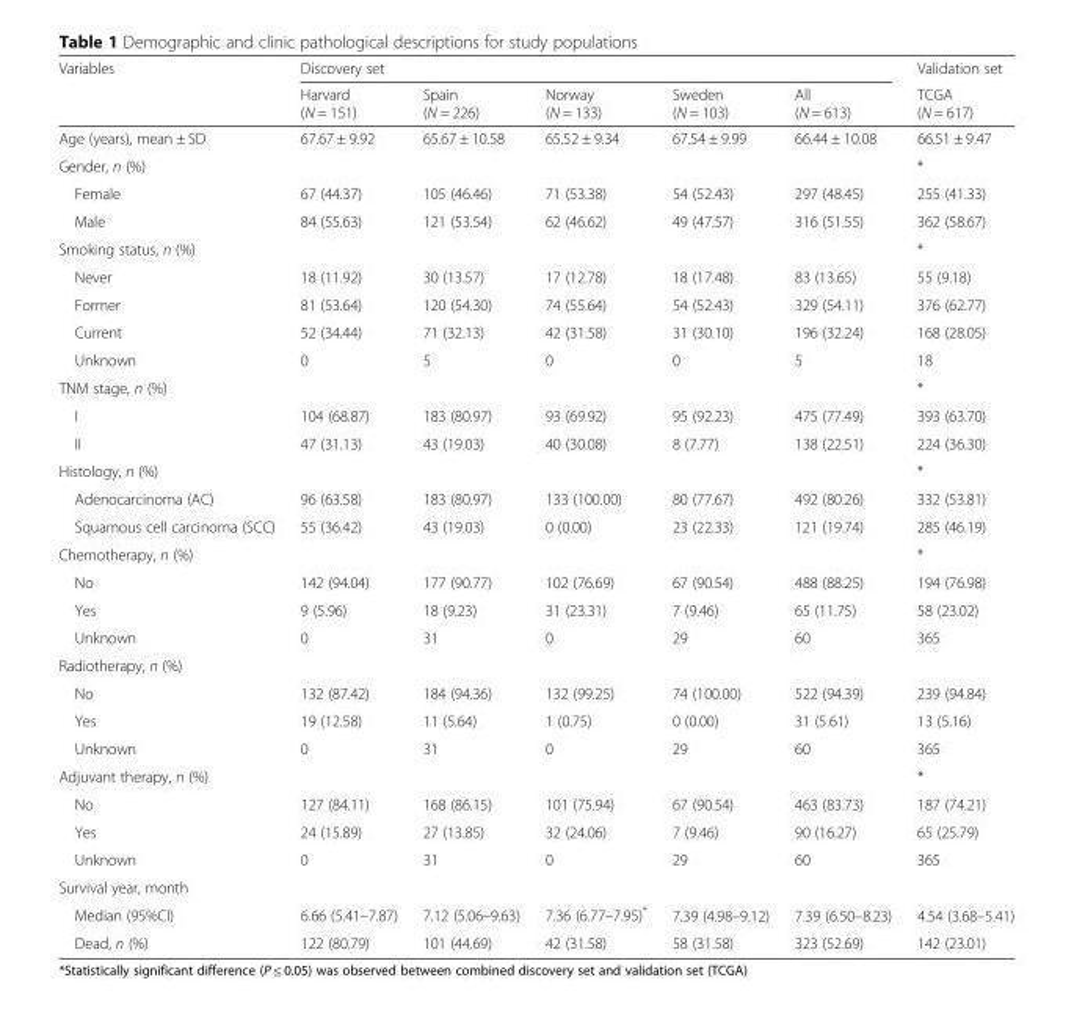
<table><thead><tr><td rowspan="2">Variables</td><td colspan="5">Discovery set</td><td rowspan="2">Validation set TCGA (N = 617)</td></tr><tr><td>Harvard (N = 151)</td><td>Spain (N = 226)</td><td>Norway (N = 133)</td><td>Sweden (N = 103)</td><td>All (N = 613)</td></tr></thead><tbody><tr><td>Age (years), mean ± SD</td><td>67.67 ± 9.92</td><td>65.67 ± 10.58</td><td>65.52 ± 9.34</td><td>67.54 ± 9.99</td><td>66.44 ± 10.08</td><td>66.51 ± 9.47</td></tr><tr><td>Gender, n (%)</td><td></td><td></td><td></td><td></td><td></td><td>*</td></tr><tr><td>Female</td><td>67 (44.37)</td><td>105 (46.46)</td><td>71 (53.38)</td><td>54 (52.43)</td><td>297 (48.45)</td><td>255 (41.33)</td></tr><tr><td>Male</td><td>84 (55.63)</td><td>121 (53.54)</td><td>62 (46.62)</td><td>49 (47.57)</td><td>316 (51.55)</td><td>362 (58.67)</td></tr><tr><td>Smoking status, n (%)</td><td></td><td></td><td></td><td></td><td></td><td>*</td></tr><tr><td>Never</td><td>18 (11.92)</td><td>30 (13.57)</td><td>17 (12.78)</td><td>18 (17.48)</td><td>83 (13.65)</td><td>55 (9.18)</td></tr><tr><td>Former</td><td>81 (53.64)</td><td>120 (54.30)</td><td>74 (55.64)</td><td>54 (52.43)</td><td>329 (54.11)</td><td>376 (62.77)</td></tr><tr><td>Current</td><td>52 (34.44)</td><td>71 (32.13)</td><td>42 (31.58)</td><td>31 (30.10)</td><td>196 (32.24)</td><td>168 (28.05)</td></tr><tr><td>Unknown</td><td>0</td><td>5</td><td>0</td><td>0</td><td>5</td><td>18</td></tr><tr><td>TNM stage, n (%)</td><td></td><td></td><td></td><td></td><td></td><td>*</td></tr><tr><td>I</td><td>104 (68.87)</td><td>183 (80.97)</td><td>93 (69.92)</td><td>95 (92.23)</td><td>475 (77.49)</td><td>393 (63.70)</td></tr><tr><td>II</td><td>47 (31.13)</td><td>43 (19.03)</td><td>40 (30.08)</td><td>8 (7.77)</td><td>138 (22.51)</td><td>224 (36.30)</td></tr><tr><td>Histology, n (%)</td><td></td><td></td><td></td><td></td><td></td><td>*</td></tr><tr><td>Adenocarcinoma (AC)</td><td>96 (63.58)</td><td>183 (80.97)</td><td>133 (100.00)</td><td>80 (77.67)</td><td>492 (80.26)</td><td>332 (53.81)</td></tr><tr><td>Squamous cell carcinoma (SCC)</td><td>55 (36.42)</td><td>43 (19.03)</td><td>0 (0.00)</td><td>23 (22.33)</td><td>121 (19.74)</td><td>285 (46.19)</td></tr><tr><td>Chemotherapy, n (%)</td><td></td><td></td><td></td><td></td><td></td><td>*</td></tr><tr><td>No</td><td>142 (94.04)</td><td>177 (90.77)</td><td>102 (76.69)</td><td>67 (90.54)</td><td>488 (88.25)</td><td>194 (76.98)</td></tr><tr><td>Yes</td><td>9 (5.96)</td><td>18 (9.23)</td><td>31 (23.31)</td><td>7 (9.46)</td><td>65 (11.75)</td><td>58 (23.02)</td></tr><tr><td>Unknown</td><td>0</td><td>31</td><td>0</td><td>29</td><td>60</td><td>365</td></tr><tr><td colspan="7">Radiotherapy, n (%)</td></tr><tr><td>No</td><td>132 (87.42)</td><td>184 (94.36)</td><td>132 (99.25)</td><td>74 (100.00)</td><td>522 (94.39)</td><td>239 (94.84)</td></tr><tr><td>Yes</td><td>19 (12.58)</td><td>11 (5.64)</td><td>1 (0.75)</td><td>0 (0.00)</td><td>31 (5.61)</td><td>13 (5.16)</td></tr><tr><td>Unknown</td><td>0</td><td>31</td><td>0</td><td>29</td><td>60</td><td>365</td></tr><tr><td>Adjuvant therapy, n (%)</td><td></td><td></td><td></td><td></td><td></td><td>*</td></tr><tr><td>No</td><td>127 (84.11)</td><td>168 (86.15)</td><td>101 (75.94)</td><td>67 (90.54)</td><td>463 (83.73)</td><td>187 (74.21)</td></tr><tr><td>Yes</td><td>24 (15.89)</td><td>27 (13.85)</td><td>32 (24.06)</td><td>7 (9.46)</td><td>90 (16.27)</td><td>65 (25.79)</td></tr><tr><td>Unknown</td><td>0</td><td>31</td><td>0</td><td>29</td><td>60</td><td>365</td></tr><tr><td colspan="7">Survival year, month</td></tr><tr><td>Median (95%CI)</td><td>6.66 (5.41–7.87)</td><td>7.12 (5.06–9.63)</td><td>7.36 (6.77–7.95)*</td><td>7.39 (4.98–9.12)</td><td>7.39 (6.50–8.23)</td><td>4.54 (3.68–5.41)</td></tr><tr><td>Dead, n (%)</td><td>122 (80.79)</td><td>101 (44.69)</td><td>42 (31.58)</td><td>58 (31.58)</td><td>323 (52.69)</td><td>142 (23.01)</td></tr></tbody></table>